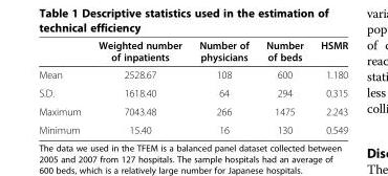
<table><thead><tr><td></td><td>Weighted number of inpatients</td><td>Number of physicians</td><td>Number of beds</td><td>HSMR</td></tr></thead><tbody><tr><td>Mean</td><td>2528.67</td><td>108</td><td>600</td><td>1.180</td></tr><tr><td>S.D.</td><td>1618.40</td><td>64</td><td>294</td><td>0.315</td></tr><tr><td>Maximum</td><td>7043.48</td><td>266</td><td>1475</td><td>2.243</td></tr><tr><td>Minimum</td><td>15.40</td><td>16</td><td>130</td><td>0.549</td></tr></tbody></table>